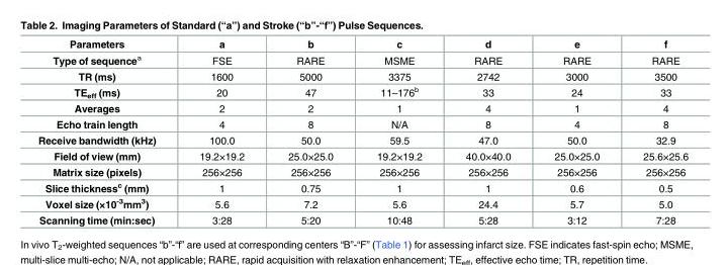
<table><thead><tr><td>Parameters</td><td>a</td><td>b</td><td>c</td><td>d</td><td>e</td><td>f</td></tr></thead><tbody><tr><td>Type of sequence<sup>a</sup></td><td>FSE</td><td>RARE</td><td>MSME</td><td>RARE</td><td>RARE</td><td>RARE</td></tr><tr><td>TR (ms)</td><td>1600</td><td>5000</td><td>3375</td><td>2742</td><td>3000</td><td>3500</td></tr><tr><td>TE<sub>eff</sub> (ms)</td><td>20</td><td>47</td><td>11–176<sup>b</sup></td><td>33</td><td>24</td><td>33</td></tr><tr><td>Averages</td><td>2</td><td>2</td><td>1</td><td>4</td><td>1</td><td>4</td></tr><tr><td>Echo train length</td><td>4</td><td>8</td><td>N/A</td><td>8</td><td>4</td><td>8</td></tr><tr><td>Receive bandwidth (kHz)</td><td>100.0</td><td>50.0</td><td>59.5</td><td>47.0</td><td>50.0</td><td>32.9</td></tr><tr><td>Field of view (mm)</td><td>19.2×19.2</td><td>25.0×25.0</td><td>19.2×19.2</td><td>40.0×40.0</td><td>25.0×25.0</td><td>25.6×25.6</td></tr><tr><td>Matrix size (pixels)</td><td>256×256</td><td>256×256</td><td>256×256</td><td>256×256</td><td>256×256</td><td>256×256</td></tr><tr><td>Slice thickness<sup>c</sup> (mm)</td><td>1</td><td>0.75</td><td>1</td><td>1</td><td>0.6</td><td>0.5</td></tr><tr><td>Voxel size (×10<sup>-3</sup>mm<sup>3</sup>)</td><td>5.6</td><td>7.2</td><td>5.6</td><td>24.4</td><td>5.7</td><td>5.0</td></tr><tr><td>Scanning time (min:sec)</td><td>3:28</td><td>5:20</td><td>10:48</td><td>5:28</td><td>3:12</td><td>7:28</td></tr></tbody></table>